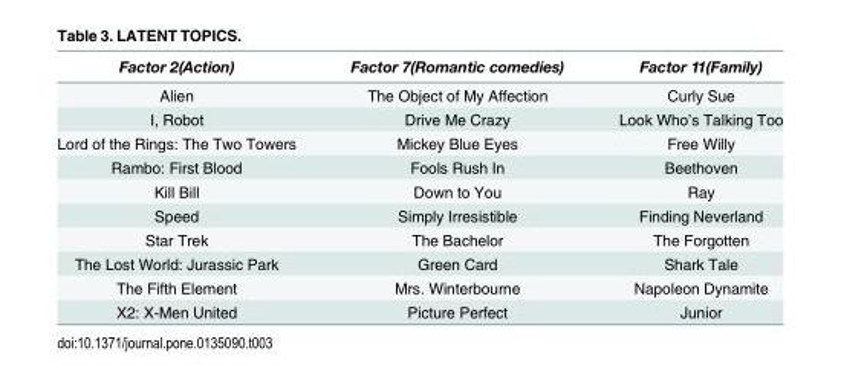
<table><thead><tr><td>Factor 2(Action)</td><td>Factor 7(Romantic comedies)</td><td>Factor 11(Family)</td></tr></thead><tbody><tr><td>Alien</td><td>The Object of My Affection</td><td>Curly Sue</td></tr><tr><td>I, Robot</td><td>Drive Me Crazy</td><td>Look Who’s Talking Too</td></tr><tr><td>Lord of the Rings: The Two Towers</td><td>Mickey Blue Eyes</td><td>Free Willy</td></tr><tr><td>Rambo: First Blood</td><td>Fools Rush In</td><td>Beethoven</td></tr><tr><td>Kill Bill</td><td>Down to You</td><td>Ray</td></tr><tr><td>Speed</td><td>Simply Irresistible</td><td>Finding Neverland</td></tr><tr><td>Star Trek</td><td>The Bachelor</td><td>The Forgotten</td></tr><tr><td>The Lost World: Jurassic Park</td><td>Green Card</td><td>Shark Tale</td></tr><tr><td>The Fifth Element</td><td>Mrs. Winterbourne</td><td>Napoleon Dynamite</td></tr><tr><td>X2: X-Men United</td><td>Picture Perfect</td><td>Junior</td></tr></tbody></table>